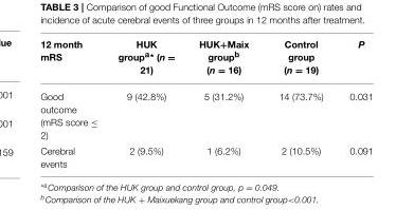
<table><thead><tr><td>12 month mRS</td><td>HUK group<sup>a*</sup> (n = 21)</td><td>HUK+Maix group<sup>b</sup> (n = 16)</td><td>Control group (n = 19)</td><td>P</td></tr></thead><tbody><tr><td>Good outcome (mRS score ≤ 2)</td><td>9 (42.8%)</td><td>5 (31.2%)</td><td>14 (73.7%)</td><td>0.031</td></tr><tr><td>Cerebral events</td><td>2 (9.5%)</td><td>1 (6.2%)</td><td>2 (10.5%)</td><td>0.091</td></tr></tbody></table>